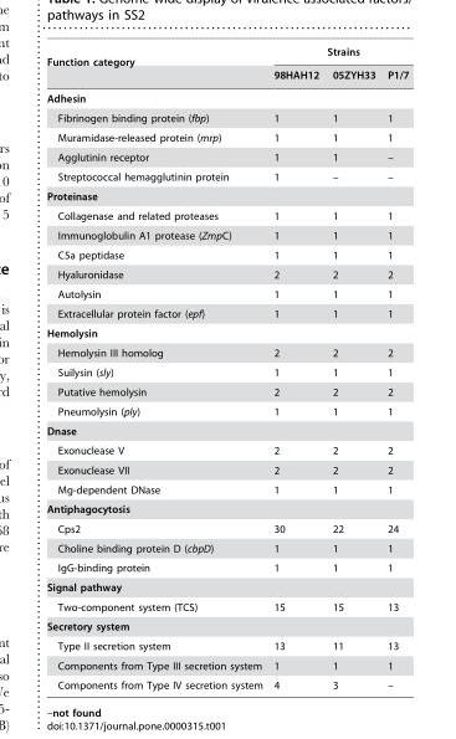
<table><thead><tr><td rowspan="2">Function category</td><td colspan="3">Strains</td></tr><tr><td>98HAH12</td><td>05ZYH33</td><td>P1/7</td></tr></thead><tbody><tr><td colspan="4">Adhesin</td></tr><tr><td>Fibrinogen binding protein (fbp)</td><td>1</td><td>1</td><td>1</td></tr><tr><td>Muramidase-released protein (mrp)</td><td>1</td><td>1</td><td>1</td></tr><tr><td>Agglutinin receptor</td><td>1</td><td>1</td><td>–</td></tr><tr><td>Streptococcal hemagglutinin protein</td><td>1</td><td>–</td><td>–</td></tr><tr><td colspan="4">Proteinase</td></tr><tr><td>Collagenase and related proteases</td><td>1</td><td>1</td><td>1</td></tr><tr><td>Immunoglobulin A1 protease (ZmpC)</td><td>1</td><td>1</td><td>1</td></tr><tr><td>C5a peptidase</td><td>1</td><td>1</td><td>1</td></tr><tr><td>Hyaluronidase</td><td>2</td><td>2</td><td>2</td></tr><tr><td>Autolysin</td><td>1</td><td>1</td><td>1</td></tr><tr><td>Extracellular protein factor (epf)</td><td>1</td><td>1</td><td>1</td></tr><tr><td colspan="4">Hemolysin</td></tr><tr><td>Hemolysin III homolog</td><td>2</td><td>2</td><td>2</td></tr><tr><td>Suilysin (sly)</td><td>1</td><td>1</td><td>1</td></tr><tr><td>Putative hemolysin</td><td>2</td><td>2</td><td>2</td></tr><tr><td>Pneumolysin (ply)</td><td>1</td><td>1</td><td>1</td></tr><tr><td colspan="4">Dnase</td></tr><tr><td>Exonuclease V</td><td>2</td><td>2</td><td>2</td></tr><tr><td>Exonuclease VII</td><td>2</td><td>2</td><td>2</td></tr><tr><td>Mg-dependent DNase</td><td>1</td><td>1</td><td>1</td></tr><tr><td colspan="4">Antiphagocytosis</td></tr><tr><td>Cps2</td><td>30</td><td>22</td><td>24</td></tr><tr><td>Choline binding protein D (cbpD)</td><td>1</td><td>1</td><td>1</td></tr><tr><td>IgG-binding protein</td><td>1</td><td>1</td><td>1</td></tr><tr><td colspan="4">Signal pathway</td></tr><tr><td>Two-component system (TCS)</td><td>15</td><td>15</td><td>13</td></tr><tr><td colspan="4">Secretory system</td></tr><tr><td>Type II secretion system</td><td>13</td><td>11</td><td>13</td></tr><tr><td>Components from Type III secretion system</td><td>1</td><td>1</td><td>1</td></tr><tr><td>Components from Type IV secretion system</td><td>4</td><td>3</td><td>–</td></tr></tbody></table>